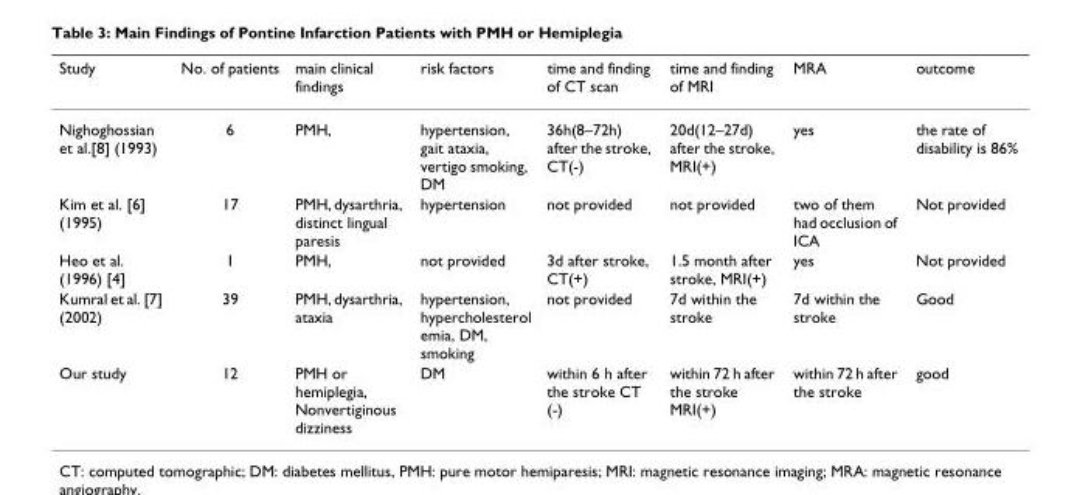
<table><thead><tr><td>Study</td><td>No. of patients</td><td>main clinical findings</td><td>risk factors</td><td>time and finding of CT scan</td><td>time and finding of MRI</td><td>MRA</td><td>outcome</td></tr></thead><tbody><tr><td>Nighoghossian et al.[8] (1993)</td><td>6</td><td>PMH,</td><td>hypertension, gait ataxia, vertigo smoking, DM</td><td>36h(8–72h) after the stroke, CT(-)</td><td>20d(12–27d) after the stroke, MRI(+)</td><td>yes</td><td>the rate of disability is 86%</td></tr><tr><td>Kim et al. [6] (1995)</td><td>17</td><td>PMH, dysarthria, distinct lingual paresis</td><td>hypertension</td><td>not provided</td><td>not provided</td><td>two of them had occlusion of ICA</td><td>Not provided</td></tr><tr><td>Heo et al. (1996) [4]</td><td>1</td><td>PMH,</td><td>not provided</td><td>3d after stroke, CT(+)</td><td>1.5 month after stroke, MRI(+)</td><td>yes</td><td>Not provided</td></tr><tr><td>Kumral et al. [7] (2002)</td><td>39</td><td>PMH, dysarthria, ataxia</td><td>hypertension, hypercholesterol emia, DM, smoking</td><td>not provided</td><td>7d within the stroke</td><td>7d within the stroke</td><td>Good</td></tr><tr><td>Our study</td><td>12</td><td>PMH or hemiplegia, Nonvertiginous dizziness</td><td>DM</td><td>within 6 h after the stroke CT (-)</td><td>within 72 h after the stroke MRI(+)</td><td>within 72 h after the stroke</td><td>good</td></tr></tbody></table>